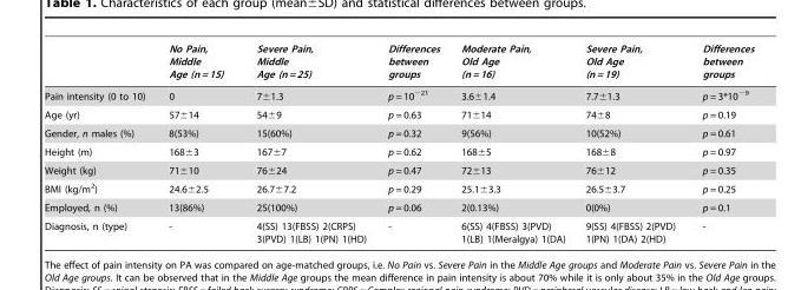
<table><thead><tr><td></td><td>No Pain, Middle Age (n = 15)</td><td>Severe Pain, Middle Age (n = 25)</td><td>Differences between groups</td><td>Moderate Pain, Old Age (n = 16)</td><td>Severe Pain, Old Age (n = 19)</td><td>Differences between groups</td></tr></thead><tbody><tr><td>Pain intensity (0 to 10)</td><td>0</td><td>7±1.3</td><td>p = 10<sup>−21</sup></td><td>3.6±1.4</td><td>7.7±1.3</td><td>p = 3*10<sup>−9</sup></td></tr><tr><td>Age (yr)</td><td>57±14</td><td>54±9</td><td>p = 0.63</td><td>71±14</td><td>74±8</td><td>p = 0.19</td></tr><tr><td>Gender, n males (%)</td><td>8(53%)</td><td>15(60%)</td><td>p = 0.32</td><td>9(56%)</td><td>10(52%)</td><td>p = 0.61</td></tr><tr><td>Height (m)</td><td>168±3</td><td>167±7</td><td>p = 0.62</td><td>168±5</td><td>168±8</td><td>p = 0.97</td></tr><tr><td>Weight (kg)</td><td>71±10</td><td>76±24</td><td>p = 0.47</td><td>72±13</td><td>76±12</td><td>p = 0.35</td></tr><tr><td>BMI (kg/m<sup>2</sup>)</td><td>24.6±2.5</td><td>26.7±7.2</td><td>p = 0.29</td><td>25.1±3.3</td><td>26.5±3.7</td><td>p = 0.25</td></tr><tr><td>Employed, n (%)</td><td>13(86%)</td><td>25(100%)</td><td>p = 0.06</td><td>2(0.13%)</td><td>0(0%)</td><td>p = 0.1</td></tr><tr><td>Diagnosis, n (type)</td><td>-</td><td>4(SS) 13(FBSS) 2(CRPS) 3(PVD) 1(LB) 1(PN) 1(HD)</td><td>-</td><td>6(SS) 4(FBSS) 3(PVD) 1(LB) 1(Meralgya) 1(DA)</td><td>9(SS) 4(FBSS) 2(PVD) 1(PN) 1(DA) 2(HD)</td><td>-</td></tr></tbody></table>